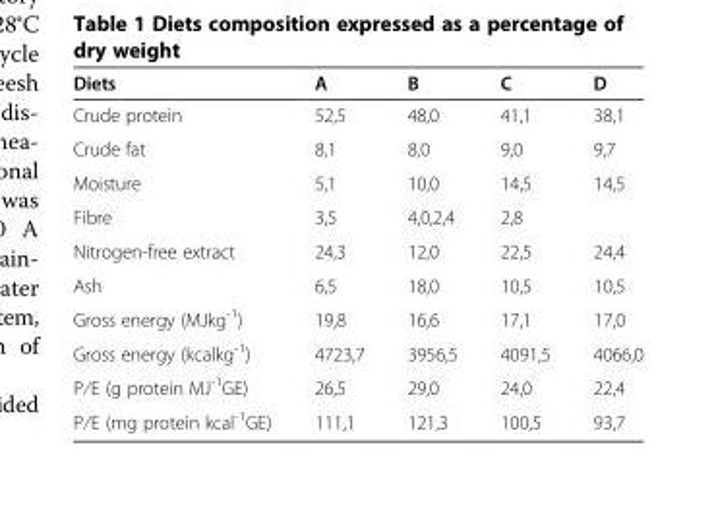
<table><thead><tr><td>Diets</td><td>A</td><td>B</td><td>C</td><td>D</td></tr></thead><tbody><tr><td>Crude protein</td><td>52,5</td><td>48,0</td><td>41,1</td><td>38,1</td></tr><tr><td>Crude fat</td><td>8,1</td><td>8,0</td><td>9,0</td><td>9,7</td></tr><tr><td>Moisture</td><td>5,1</td><td>10,0</td><td>14,5</td><td>14,5</td></tr><tr><td>Fibre</td><td>3,5</td><td>4,0,2,4</td><td>2,8</td><td></td></tr><tr><td>Nitrogen-free extract</td><td>24,3</td><td>12,0</td><td>22,5</td><td>24,4</td></tr><tr><td>Ash</td><td>6,5</td><td>18,0</td><td>10,5</td><td>10,5</td></tr><tr><td>Gross energy (MJkg<sup>-1</sup>)</td><td>19,8</td><td>16,6</td><td>17,1</td><td>17,0</td></tr><tr><td>Gross energy (kcalkg<sup>-1</sup>)</td><td>4723,7</td><td>3956,5</td><td>4091,5</td><td>4066,0</td></tr><tr><td>P⁄E (g protein MJ<sup>-1</sup>GE)</td><td>26,5</td><td>29,0</td><td>24,0</td><td>22,4</td></tr><tr><td>P⁄E (mg protein kcal<sup>-1</sup>GE)</td><td>111,1</td><td>121,3</td><td>100,5</td><td>93,7</td></tr></tbody></table>